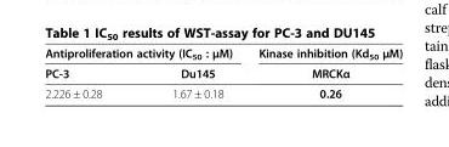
<table><thead><tr><td colspan="2">Antiproliferation activity (IC<sub>50</sub> : μM)</td><td rowspan="2">Kinase inhibition (Kd<sub>50</sub> μM) MRCKα</td></tr><tr><td>PC-3</td><td>Du145</td></tr></thead><tbody><tr><td>2.226 ± 0.28</td><td>1.67 ± 0.18</td><td>0.26</td></tr></tbody></table>